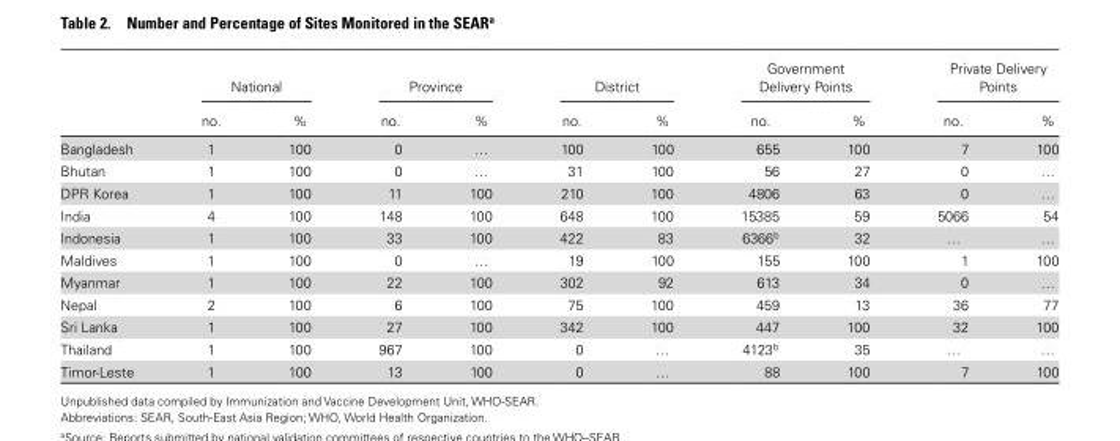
<table><thead><tr><td rowspan="2"></td><td colspan="2">National</td><td colspan="2">Province</td><td colspan="2">District</td><td colspan="2">Government Delivery Points</td><td colspan="2">Private Delivery Points</td></tr><tr><td>no.</td><td>%</td><td>no.</td><td>%</td><td>no.</td><td>%</td><td>no.</td><td>%</td><td>no.</td><td>%</td></tr></thead><tbody><tr><td>Bangladesh</td><td>1</td><td>100</td><td>0</td><td>…</td><td>100</td><td>100</td><td>655</td><td>100</td><td>7</td><td>100</td></tr><tr><td>Bhutan</td><td>1</td><td>100</td><td>0</td><td>…</td><td>31</td><td>100</td><td>56</td><td>27</td><td>0</td><td>…</td></tr><tr><td>DPR Korea</td><td>1</td><td>100</td><td>11</td><td>100</td><td>210</td><td>100</td><td>4806</td><td>63</td><td>0</td><td>…</td></tr><tr><td>India</td><td>4</td><td>100</td><td>148</td><td>100</td><td>648</td><td>100</td><td>15385</td><td>59</td><td>5066</td><td>54</td></tr><tr><td>Indonesia</td><td>1</td><td>100</td><td>33</td><td>100</td><td>422</td><td>83</td><td>6366<sup>b</sup></td><td>32</td><td>…</td><td>…</td></tr><tr><td>Maldives</td><td>1</td><td>100</td><td>0</td><td>…</td><td>19</td><td>100</td><td>155</td><td>100</td><td>1</td><td>100</td></tr><tr><td>Myanmar</td><td>1</td><td>100</td><td>22</td><td>100</td><td>302</td><td>92</td><td>613</td><td>34</td><td>0</td><td>…</td></tr><tr><td>Nepal</td><td>2</td><td>100</td><td>6</td><td>100</td><td>75</td><td>100</td><td>459</td><td>13</td><td>36</td><td>77</td></tr><tr><td>Sri Lanka</td><td>1</td><td>100</td><td>27</td><td>100</td><td>342</td><td>100</td><td>447</td><td>100</td><td>32</td><td>100</td></tr><tr><td>Thailand</td><td>1</td><td>100</td><td>967</td><td>100</td><td>0</td><td>…</td><td>4123<sup>b</sup></td><td>35</td><td>…</td><td>…</td></tr><tr><td>Timor-Leste</td><td>1</td><td>100</td><td>13</td><td>100</td><td>0</td><td>…</td><td>88</td><td>100</td><td>7</td><td>100</td></tr></tbody></table>